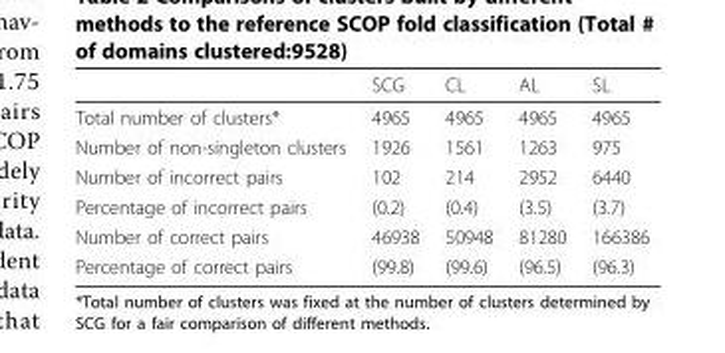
<table><thead><tr><td></td><td>SCG</td><td>CL</td><td>AL</td><td>SL</td></tr></thead><tbody><tr><td>Total number of clusters*</td><td>4965</td><td>4965</td><td>4965</td><td>4965</td></tr><tr><td>Number of non-singleton clusters</td><td>1926</td><td>1561</td><td>1263</td><td>975</td></tr><tr><td>Number of incorrect pairs</td><td>102</td><td>214</td><td>2952</td><td>6440</td></tr><tr><td>Percentage of incorrect pairs</td><td>(0.2)</td><td>(0.4)</td><td>(3.5)</td><td>(3.7)</td></tr><tr><td>Number of correct pairs</td><td>46938</td><td>50948</td><td>81280</td><td>166386</td></tr><tr><td>Percentage of correct pairs</td><td>(99.8)</td><td>(99.6)</td><td>(96.5)</td><td>(96.3)</td></tr></tbody></table>